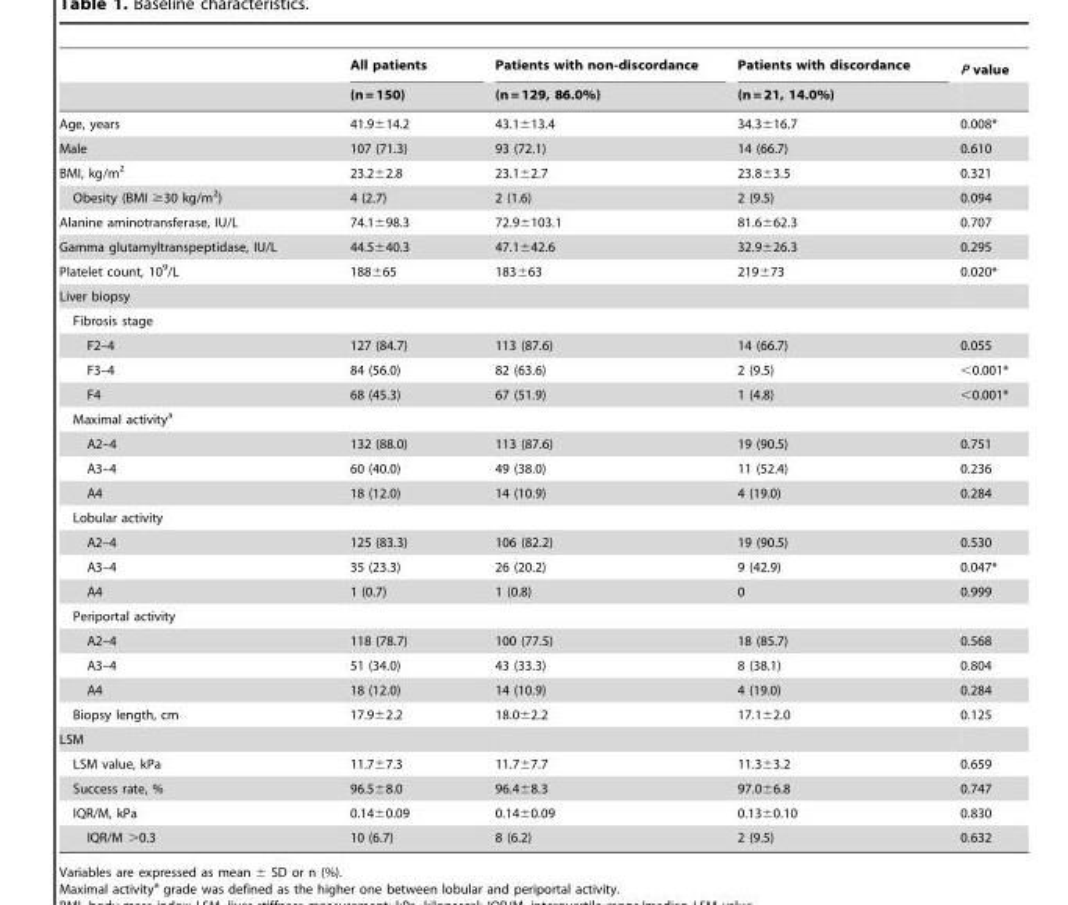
<table><thead><tr><td rowspan="2"></td><td rowspan="2">All patients (n = 150)</td><td rowspan="2">Patients with non-discordance (n = 129, 86.0%)</td><td rowspan="2">Patients with discordance (n = 21, 14.0%)</td><td rowspan="2">P value</td></tr><tr></tr></thead><tbody><tr><td>Age, years</td><td>41.9±14.2</td><td>43.1±13.4</td><td>34.3±16.7</td><td>0.008*</td></tr><tr><td>Male</td><td>107 (71.3)</td><td>93 (72.1)</td><td>14 (66.7)</td><td>0.610</td></tr><tr><td>BMI, kg/m<sup>2</sup></td><td>23.2±2.8</td><td>23.1±2.7</td><td>23.8±3.5</td><td>0.321</td></tr><tr><td>Obesity (BMI ≥30 kg/m<sup>2</sup>)</td><td>4 (2.7)</td><td>2 (1.6)</td><td>2 (9.5)</td><td>0.094</td></tr><tr><td>Alanine aminotransferase, IU/L</td><td>74.1±98.3</td><td>72.9±103.1</td><td>81.6±62.3</td><td>0.707</td></tr><tr><td>Gamma glutamyltranspeptidase, IU/L</td><td>44.5±40.3</td><td>47.1±42.6</td><td>32.9±26.3</td><td>0.295</td></tr><tr><td>Platelet count, 10<sup>9</sup>/L</td><td>188±65</td><td>183±63</td><td>219±73</td><td>0.020*</td></tr><tr><td colspan="5">Liver biopsy</td></tr><tr><td colspan="5">Fibrosis stage</td></tr><tr><td>F2–4</td><td>127 (84.7)</td><td>113 (87.6)</td><td>14 (66.7)</td><td>0.055</td></tr><tr><td>F3–4</td><td>84 (56.0)</td><td>82 (63.6)</td><td>2 (9.5)</td><td>&lt;0.001*</td></tr><tr><td>F4</td><td>68 (45.3)</td><td>67 (51.9)</td><td>1 (4.8)</td><td>&lt;0.001*</td></tr><tr><td colspan="5">Maximal activity<sup>a</sup></td></tr><tr><td>A2–4</td><td>132 (88.0)</td><td>113 (87.6)</td><td>19 (90.5)</td><td>0.751</td></tr><tr><td>A3–4</td><td>60 (40.0)</td><td>49 (38.0)</td><td>11 (52.4)</td><td>0.236</td></tr><tr><td>A4</td><td>18 (12.0)</td><td>14 (10.9)</td><td>4 (19.0)</td><td>0.284</td></tr><tr><td colspan="5">Lobular activity</td></tr><tr><td>A2–4</td><td>125 (83.3)</td><td>106 (82.2)</td><td>19 (90.5)</td><td>0.530</td></tr><tr><td>A3–4</td><td>35 (23.3)</td><td>26 (20.2)</td><td>9 (42.9)</td><td>0.047*</td></tr><tr><td>A4</td><td>1 (0.7)</td><td>1 (0.8)</td><td>0</td><td>0.999</td></tr><tr><td colspan="5">Periportal activity</td></tr><tr><td>A2–4</td><td>118 (78.7)</td><td>100 (77.5)</td><td>18 (85.7)</td><td>0.568</td></tr><tr><td>A3–4</td><td>51 (34.0)</td><td>43 (33.3)</td><td>8 (38.1)</td><td>0.804</td></tr><tr><td>A4</td><td>18 (12.0)</td><td>14 (10.9)</td><td>4 (19.0)</td><td>0.284</td></tr><tr><td>Biopsy length, cm</td><td>17.9±2.2</td><td>18.0±2.2</td><td>17.1±2.0</td><td>0.125</td></tr><tr><td colspan="5">LSM</td></tr><tr><td>LSM value, kPa</td><td>11.7±7.3</td><td>11.7±7.7</td><td>11.3±3.2</td><td>0.659</td></tr><tr><td>Success rate, %</td><td>96.5±8.0</td><td>96.4±8.3</td><td>97.0±6.8</td><td>0.747</td></tr><tr><td>IQR/M, kPa</td><td>0.14±0.09</td><td>0.14±0.09</td><td>0.13±0.10</td><td>0.830</td></tr><tr><td>IQR/M &gt;0.3</td><td>10 (6.7)</td><td>8 (6.2)</td><td>2 (9.5)</td><td>0.632</td></tr></tbody></table>